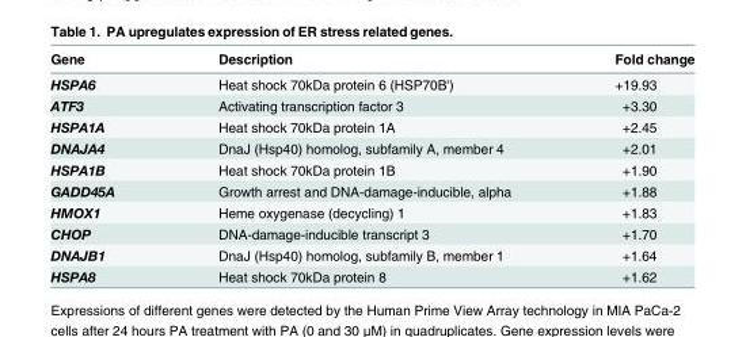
<table><thead><tr><td>Gene</td><td>Description</td><td>Fold change</td></tr></thead><tbody><tr><td>HSPA6</td><td>Heat shock 70kDa protein 6 (HSP70B&#x27;)</td><td>+19.93</td></tr><tr><td>ATF3</td><td>Activating transcription factor 3</td><td>+3.30</td></tr><tr><td>HSPA1A</td><td>Heat shock 70kDa protein 1A</td><td>+2.45</td></tr><tr><td>DNAJA4</td><td>DnaJ (Hsp40) homolog, subfamily A, member 4</td><td>+2.01</td></tr><tr><td>HSPA1B</td><td>Heat shock 70kDa protein 1B</td><td>+1.90</td></tr><tr><td>GADD45A</td><td>Growth arrest and DNA-damage-inducible, alpha</td><td>+1.88</td></tr><tr><td>HMOX1</td><td>Heme oxygenase (decycling) 1</td><td>+1.83</td></tr><tr><td>CHOP</td><td>DNA-damage-inducible transcript 3</td><td>+1.70</td></tr><tr><td>DNAJB1</td><td>DnaJ (Hsp40) homolog, subfamily B, member 1</td><td>+1.64</td></tr><tr><td>HSPA8</td><td>Heat shock 70kDa protein 8</td><td>+1.62</td></tr></tbody></table>